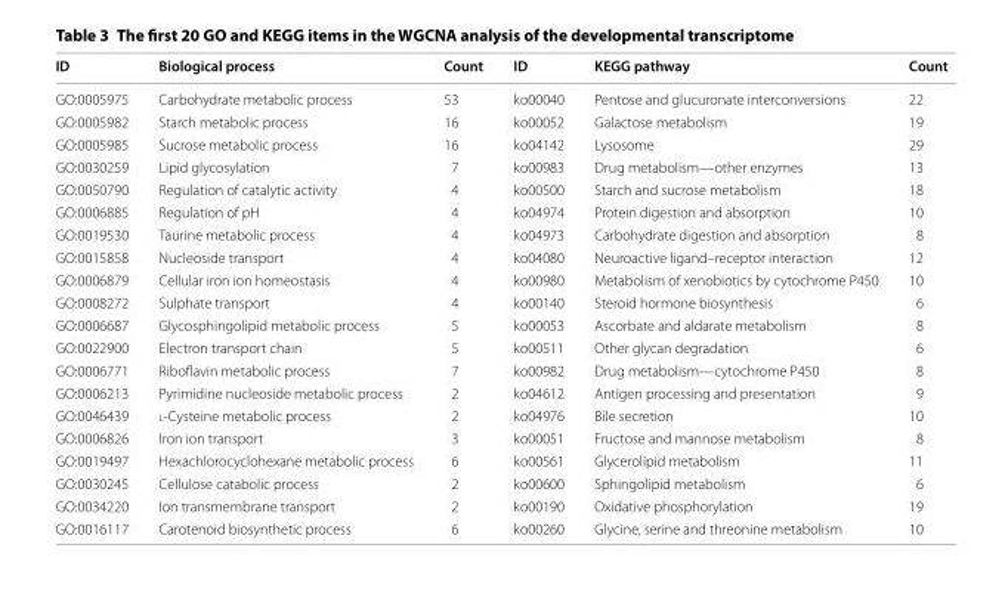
<table><thead><tr><td>ID</td><td>Biological process</td><td>Count</td><td>ID</td><td>KEGG pathway</td><td>Count</td></tr></thead><tbody><tr><td>GO:0005975</td><td>Carbohydrate metabolic process</td><td>53</td><td>ko00040</td><td>Pentose and glucuronate interconversions</td><td>22</td></tr><tr><td>GO:0005982</td><td>Starch metabolic process</td><td>16</td><td>ko00052</td><td>Galactose metabolism</td><td>19</td></tr><tr><td>GO:0005985</td><td>Sucrose metabolic process</td><td>16</td><td>ko04142</td><td>Lysosome</td><td>29</td></tr><tr><td>GO:0030259</td><td>Lipid glycosylation</td><td>7</td><td>ko00983</td><td>Drug metabolism—other enzymes</td><td>13</td></tr><tr><td>GO:0050790</td><td>Regulation of catalytic activity</td><td>4</td><td>ko00500</td><td>Starch and sucrose metabolism</td><td>18</td></tr><tr><td>GO:0006885</td><td>Regulation of pH</td><td>4</td><td>ko04974</td><td>Protein digestion and absorption</td><td>10</td></tr><tr><td>GO:0019530</td><td>Taurine metabolic process</td><td>4</td><td>ko04973</td><td>Carbohydrate digestion and absorption</td><td>8</td></tr><tr><td>GO:0015858</td><td>Nucleoside transport</td><td>4</td><td>ko04080</td><td>Neuroactive ligand–receptor interaction</td><td>12</td></tr><tr><td>GO:0006879</td><td>Cellular iron ion homeostasis</td><td>4</td><td>ko00980</td><td>Metabolism of xenobiotics by cytochrome P450</td><td>10</td></tr><tr><td>GO:0008272</td><td>Sulphate transport</td><td>4</td><td>ko00140</td><td>Steroid hormone biosynthesis</td><td>6</td></tr><tr><td>GO:0006687</td><td>Glycosphingolipid metabolic process</td><td>5</td><td>ko00053</td><td>Ascorbate and aldarate metabolism</td><td>8</td></tr><tr><td>GO:0022900</td><td>Electron transport chain</td><td>5</td><td>ko00511</td><td>Other glycan degradation</td><td>6</td></tr><tr><td>GO:0006771</td><td>Riboflavin metabolic process</td><td>7</td><td>ko00982</td><td>Drug metabolism—cytochrome P450</td><td>8</td></tr><tr><td>GO:0006213</td><td>Pyrimidine nucleoside metabolic process</td><td>2</td><td>ko04612</td><td>Antigen processing and presentation</td><td>9</td></tr><tr><td>GO:0046439</td><td>l-Cysteine metabolic process</td><td>2</td><td>ko04976</td><td>Bile secretion</td><td>10</td></tr><tr><td>GO:0006826</td><td>Iron ion transport</td><td>3</td><td>ko00051</td><td>Fructose and mannose metabolism</td><td>8</td></tr><tr><td>GO:0019497</td><td>Hexachlorocyclohexane metabolic process</td><td>6</td><td>ko00561</td><td>Glycerolipid metabolism</td><td>11</td></tr><tr><td>GO:0030245</td><td>Cellulose catabolic process</td><td>2</td><td>ko00600</td><td>Sphingolipid metabolism</td><td>6</td></tr><tr><td>GO:0034220</td><td>Ion transmembrane transport</td><td>2</td><td>ko00190</td><td>Oxidative phosphorylation</td><td>19</td></tr><tr><td>GO:0016117</td><td>Carotenoid biosynthetic process</td><td>6</td><td>ko00260</td><td>Glycine, serine and threonine metabolism</td><td>10</td></tr></tbody></table>